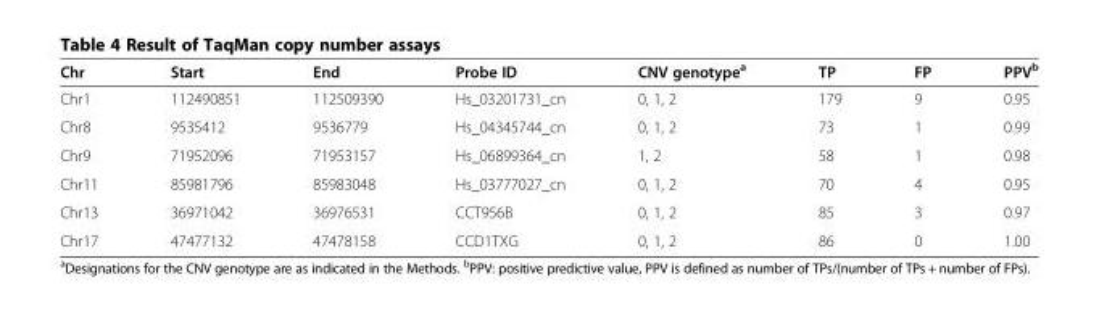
<table><thead><tr><td>Chr</td><td>Start</td><td>End</td><td>Probe ID</td><td>CNV genotype<sup>a</sup></td><td>TP</td><td>FP</td><td>PPV<sup>b</sup></td></tr></thead><tbody><tr><td>Chr1</td><td>112490851</td><td>112509390</td><td>Hs_03201731_cn</td><td>0, 1, 2</td><td>179</td><td>9</td><td>0.95</td></tr><tr><td>Chr8</td><td>9535412</td><td>9536779</td><td>Hs_04345744_cn</td><td>0, 1, 2</td><td>73</td><td>1</td><td>0.99</td></tr><tr><td>Chr9</td><td>71952096</td><td>71953157</td><td>Hs_06899364_cn</td><td>1, 2</td><td>58</td><td>1</td><td>0.98</td></tr><tr><td>Chr11</td><td>85981796</td><td>85983048</td><td>Hs_03777027_cn</td><td>0, 1, 2</td><td>70</td><td>4</td><td>0.95</td></tr><tr><td>Chr13</td><td>36971042</td><td>36976531</td><td>CCT956B</td><td>0, 1, 2</td><td>85</td><td>3</td><td>0.97</td></tr><tr><td>Chr17</td><td>47477132</td><td>47478158</td><td>CCD1TXG</td><td>0, 1, 2</td><td>86</td><td>0</td><td>1.00</td></tr></tbody></table>